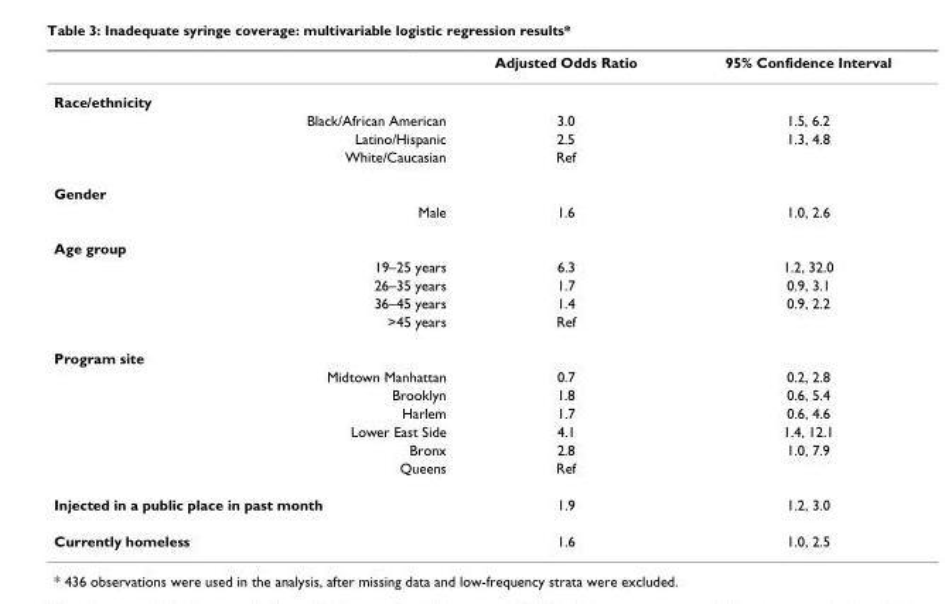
<table><thead><tr><td></td><td>Adjusted Odds Ratio</td><td>95% Confidence Interval</td></tr></thead><tbody><tr><td colspan="3">Race/ethnicity</td></tr><tr><td>Black/African American</td><td>3.0</td><td>1.5, 6.2</td></tr><tr><td>Latino/Hispanic</td><td>2.5</td><td>1.3, 4.8</td></tr><tr><td>White/Caucasian</td><td>Ref</td><td></td></tr><tr><td colspan="3">Gender</td></tr><tr><td>Male</td><td>1.6</td><td>1.0, 2.6</td></tr><tr><td colspan="3">Age group</td></tr><tr><td>19–25 years</td><td>6.3</td><td>1.2, 32.0</td></tr><tr><td>26–35 years</td><td>1.7</td><td>0.9, 3.1</td></tr><tr><td>36–45 years</td><td>1.4</td><td>0.9, 2.2</td></tr><tr><td>&gt;45 years</td><td>Ref</td><td></td></tr><tr><td colspan="3">Program site</td></tr><tr><td>Midtown Manhattan</td><td>0.7</td><td>0.2, 2.8</td></tr><tr><td>Brooklyn</td><td>1.8</td><td>0.6, 5.4</td></tr><tr><td>Harlem</td><td>1.7</td><td>0.6, 4.6</td></tr><tr><td>Lower East Side</td><td>4.1</td><td>1.4, 12.1</td></tr><tr><td>Bronx</td><td>2.8</td><td>1.0, 7.9</td></tr><tr><td>Queens</td><td>Ref</td><td></td></tr><tr><td>Injected in a public place in past month</td><td>1.9</td><td>1.2, 3.0</td></tr><tr><td>Currently homeless</td><td>1.6</td><td>1.0, 2.5</td></tr></tbody></table>